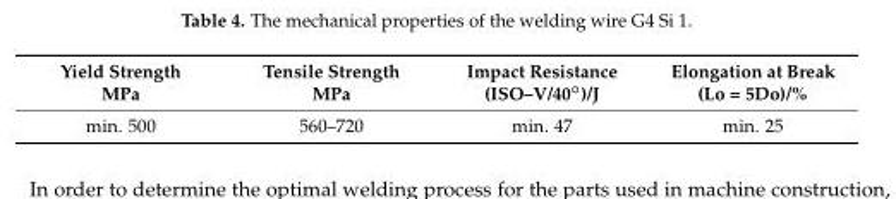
<table><thead><tr><td>Yield Strength MPa</td><td>Tensile Strength MPa</td><td>Impact Resistance (ISO–V/40◦)/J</td><td>Elongation at Break (Lo = 5Do)/%</td></tr></thead><tbody><tr><td>min. 500</td><td>560–720</td><td>min. 47</td><td>min. 25</td></tr></tbody></table>